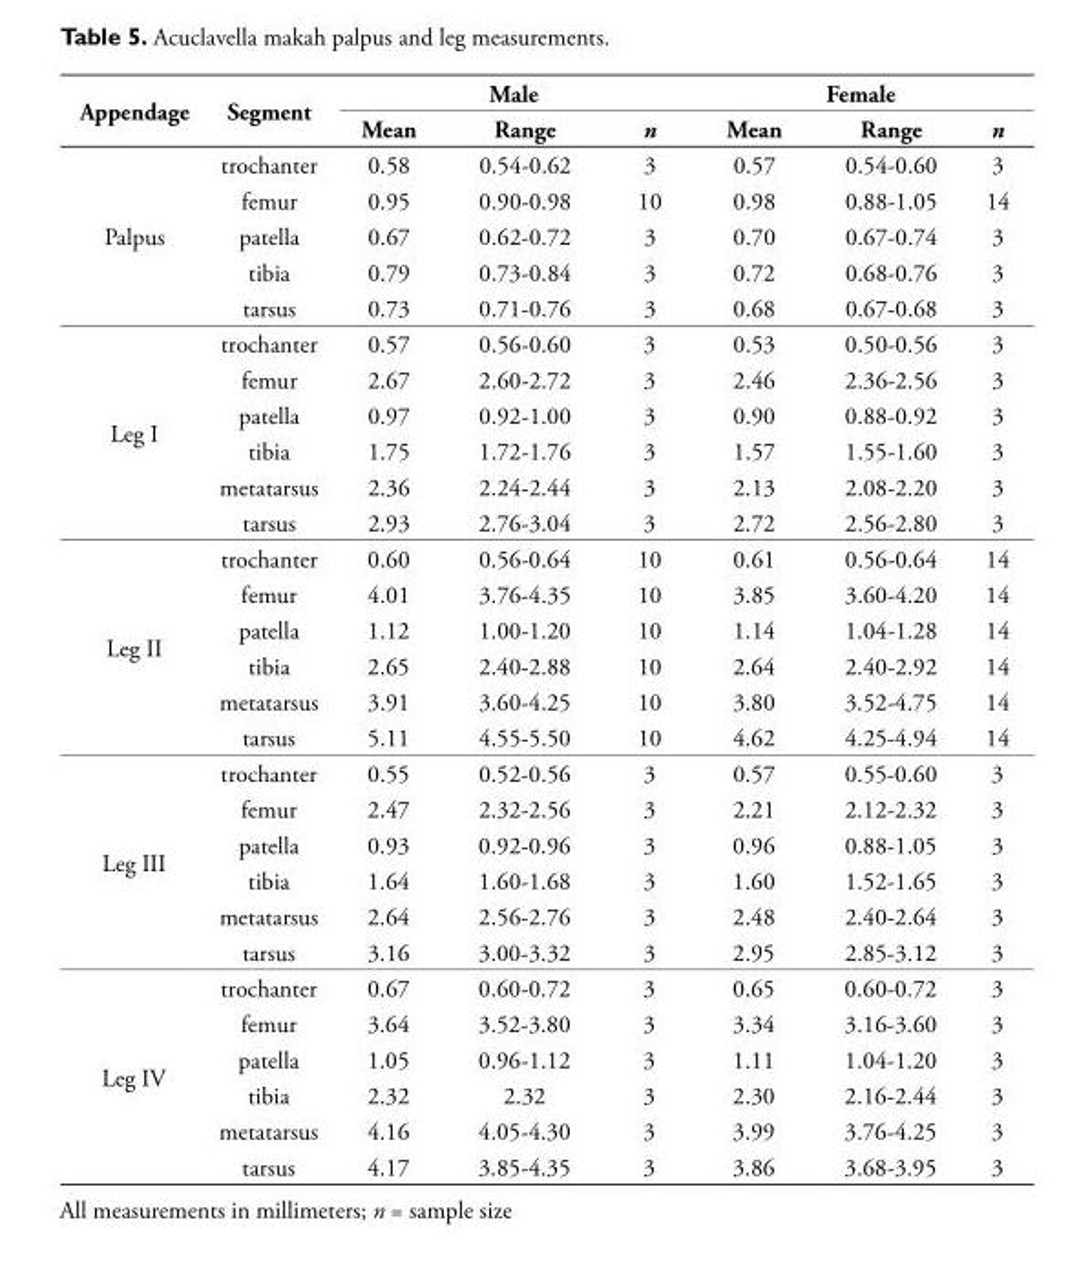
<table><thead><tr><td rowspan="2">Appendage</td><td rowspan="2">Segment</td><td colspan="3">Male</td><td colspan="3">Female</td></tr><tr><td>Mean</td><td>Range</td><td>n</td><td>Mean</td><td>Range</td><td>n</td></tr></thead><tbody><tr><td rowspan="5">Palpus</td><td>trochanter</td><td>0.58</td><td>0.54-0.62</td><td>3</td><td>0.57</td><td>0.54-0.60</td><td>3</td></tr><tr><td>femur</td><td>0.95</td><td>0.90-0.98</td><td>10</td><td>0.98</td><td>0.88-1.05</td><td>14</td></tr><tr><td>patella</td><td>0.67</td><td>0.62-0.72</td><td>3</td><td>0.70</td><td>0.67-0.74</td><td>3</td></tr><tr><td>tibia</td><td>0.79</td><td>0.73-0.84</td><td>3</td><td>0.72</td><td>0.68-0.76</td><td>3</td></tr><tr><td>tarsus</td><td>0.73</td><td>0.71-0.76</td><td>3</td><td>0.68</td><td>0.67-0.68</td><td>3</td></tr><tr><td rowspan="6">Leg I</td><td>trochanter</td><td>0.57</td><td>0.56-0.60</td><td>3</td><td>0.53</td><td>0.50-0.56</td><td>3</td></tr><tr><td>femur</td><td>2.67</td><td>2.60-2.72</td><td>3</td><td>2.46</td><td>2.36-2.56</td><td>3</td></tr><tr><td>patella</td><td>0.97</td><td>0.92-1.00</td><td>3</td><td>0.90</td><td>0.88-0.92</td><td>3</td></tr><tr><td>tibia</td><td>1.75</td><td>1.72-1.76</td><td>3</td><td>1.57</td><td>1.55-1.60</td><td>3</td></tr><tr><td>metatarsus</td><td>2.36</td><td>2.24-2.44</td><td>3</td><td>2.13</td><td>2.08-2.20</td><td>3</td></tr><tr><td>tarsus</td><td>2.93</td><td>2.76-3.04</td><td>3</td><td>2.72</td><td>2.56-2.80</td><td>3</td></tr><tr><td rowspan="6">Leg II</td><td>trochanter</td><td>0.60</td><td>0.56-0.64</td><td>10</td><td>0.61</td><td>0.56-0.64</td><td>14</td></tr><tr><td>femur</td><td>4.01</td><td>3.76-4.35</td><td>10</td><td>3.85</td><td>3.60-4.20</td><td>14</td></tr><tr><td>patella</td><td>1.12</td><td>1.00-1.20</td><td>10</td><td>1.14</td><td>1.04-1.28</td><td>14</td></tr><tr><td>tibia</td><td>2.65</td><td>2.40-2.88</td><td>10</td><td>2.64</td><td>2.40-2.92</td><td>14</td></tr><tr><td>metatarsus</td><td>3.91</td><td>3.60-4.25</td><td>10</td><td>3.80</td><td>3.52-4.75</td><td>14</td></tr><tr><td>tarsus</td><td>5.11</td><td>4.55-5.50</td><td>10</td><td>4.62</td><td>4.25-4.94</td><td>14</td></tr><tr><td rowspan="6">Leg III</td><td>trochanter</td><td>0.55</td><td>0.52-0.56</td><td>3</td><td>0.57</td><td>0.55-0.60</td><td>3</td></tr><tr><td>femur</td><td>2.47</td><td>2.32-2.56</td><td>3</td><td>2.21</td><td>2.12-2.32</td><td>3</td></tr><tr><td>patella</td><td>0.93</td><td>0.92-0.96</td><td>3</td><td>0.96</td><td>0.88-1.05</td><td>3</td></tr><tr><td>tibia</td><td>1.64</td><td>1.60-1.68</td><td>3</td><td>1.60</td><td>1.52-1.65</td><td>3</td></tr><tr><td>metatarsus</td><td>2.64</td><td>2.56-2.76</td><td>3</td><td>2.48</td><td>2.40-2.64</td><td>3</td></tr><tr><td>tarsus</td><td>3.16</td><td>3.00-3.32</td><td>3</td><td>2.95</td><td>2.85-3.12</td><td>3</td></tr><tr><td rowspan="6">Leg IV</td><td>trochanter</td><td>0.67</td><td>0.60-0.72</td><td>3</td><td>0.65</td><td>0.60-0.72</td><td>3</td></tr><tr><td>femur</td><td>3.64</td><td>3.52-3.80</td><td>3</td><td>3.34</td><td>3.16-3.60</td><td>3</td></tr><tr><td>patella</td><td>1.05</td><td>0.96-1.12</td><td>3</td><td>1.11</td><td>1.04-1.20</td><td>3</td></tr><tr><td>tibia</td><td>2.32</td><td>2.32</td><td>3</td><td>2.30</td><td>2.16-2.44</td><td>3</td></tr><tr><td>metatarsus</td><td>4.16</td><td>4.05-4.30</td><td>3</td><td>3.99</td><td>3.76-4.25</td><td>3</td></tr><tr><td>tarsus</td><td>4.17</td><td>3.85-4.35</td><td>3</td><td>3.86</td><td>3.68-3.95</td><td>3</td></tr></tbody></table>